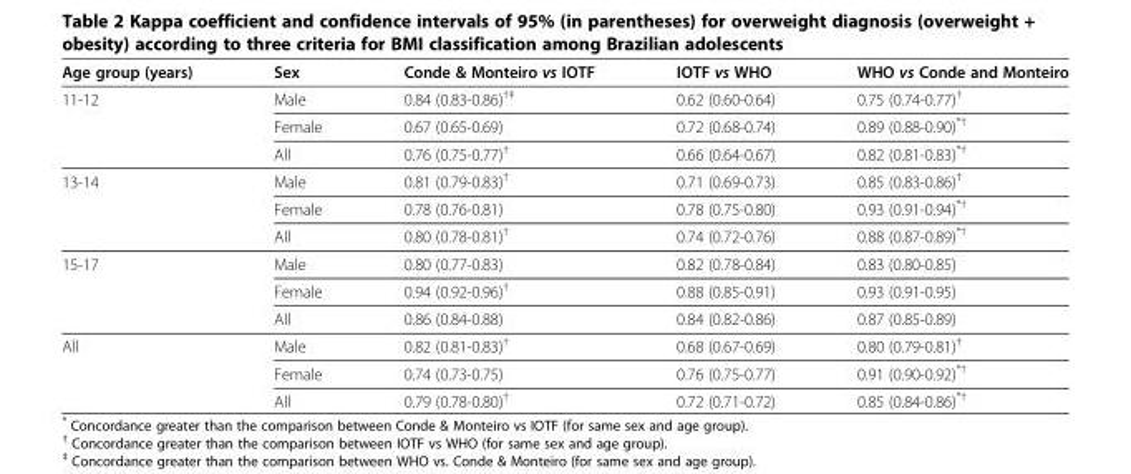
<table><thead><tr><td>Age group (years)</td><td>Sex</td><td>Conde &amp; Monteiro vs IOTF</td><td>IOTF vs WHO</td><td>WHO vs Conde and Monteiro</td></tr></thead><tbody><tr><td rowspan="3">11-12</td><td>Male</td><td>0.84 (0.83-0.86)<sup>†‡</sup></td><td>0.62 (0.60-0.64)</td><td>0.75 (0.74-0.77)<sup>†</sup></td></tr><tr><td>Female</td><td>0.67 (0.65-0.69)</td><td>0.72 (0.68-0.74)</td><td>0.89 (0.88-0.90)*<sup>†</sup></td></tr><tr><td>All</td><td>0.76 (0.75-0.77)<sup>†</sup></td><td>0.66 (0.64-0.67)</td><td>0.82 (0.81-0.83)*<sup>†</sup></td></tr><tr><td rowspan="3">13-14</td><td>Male</td><td>0.81 (0.79-0.83)<sup>†</sup></td><td>0.71 (0.69-0.73)</td><td>0.85 (0.83-0.86)<sup>†</sup></td></tr><tr><td>Female</td><td>0.78 (0.76-0.81)</td><td>0.78 (0.75-0.80)</td><td>0.93 (0.91-0.94)*<sup>†</sup></td></tr><tr><td>All</td><td>0.80 (0.78-0.81)<sup>†</sup></td><td>0.74 (0.72-0.76)</td><td>0.88 (0.87-0.89)<sup>*†</sup></td></tr><tr><td rowspan="3">15-17</td><td>Male</td><td>0.80 (0.77-0.83)</td><td>0.82 (0.78-0.84)</td><td>0.83 (0.80-0.85)</td></tr><tr><td>Female</td><td>0.94 (0.92-0.96)<sup>†</sup></td><td>0.88 (0.85-0.91)</td><td>0.93 (0.91-0.95)</td></tr><tr><td>All</td><td>0.86 (0.84-0.88)</td><td>0.84 (0.82-0.86)</td><td>0.87 (0.85-0.89)</td></tr><tr><td rowspan="3">All</td><td>Male</td><td>0.82 (0.81-0.83)<sup>†</sup></td><td>0.68 (0.67-0.69)</td><td>0.80 (0.79-0.81)<sup>†</sup></td></tr><tr><td>Female</td><td>0.74 (0.73-0.75)</td><td>0.76 (0.75-0.77)</td><td>0.91 (0.90-0.92)*<sup>†</sup></td></tr><tr><td>All</td><td>0.79 (0.78-0.80)<sup>†</sup></td><td>0.72 (0.71-0.72)</td><td>0.85 (0.84-0.86)*<sup>†</sup></td></tr></tbody></table>